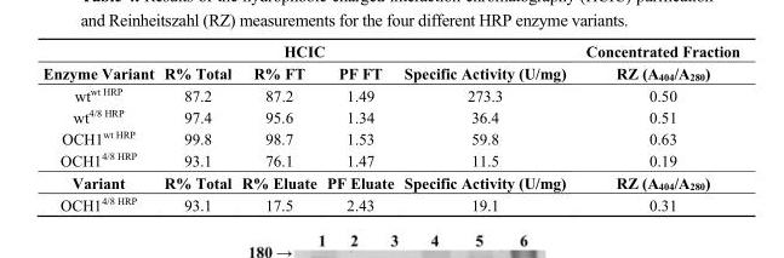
<table><thead><tr><td colspan="5">HCIC</td><td rowspan="2">Concentrated Fraction RZ (A404/A280)</td></tr><tr><td>Enzyme Variant</td><td>R% Total</td><td>R% FT</td><td>PF FT</td><td>Specific Activity (U/mg)</td></tr></thead><tbody><tr><td>wt<sup>wt HRP</sup></td><td>87.2</td><td>87.2</td><td>1.49</td><td>273.3</td><td>0.50</td></tr><tr><td>wt<sup>4/8 HRP</sup></td><td>97.4</td><td>95.6</td><td>1.34</td><td>36.4</td><td>0.51</td></tr><tr><td>OCH1<sup>wt HRP</sup></td><td>99.8</td><td>98.7</td><td>1.53</td><td>59.8</td><td>0.63</td></tr><tr><td>OCH1<sup>4/8 HRP</sup></td><td>93.1</td><td>76.1</td><td>1.47</td><td>11.5</td><td>0.19</td></tr><tr><td>Variant</td><td>R% Total</td><td>R% Eluate</td><td>PF Eluate</td><td>Specific Activity (U/mg)</td><td>RZ (A404/A280)</td></tr><tr><td>OCH1<sup>4/8 HRP</sup></td><td>93.1</td><td>17.5</td><td>2.43</td><td>19.1</td><td>0.31</td></tr></tbody></table>